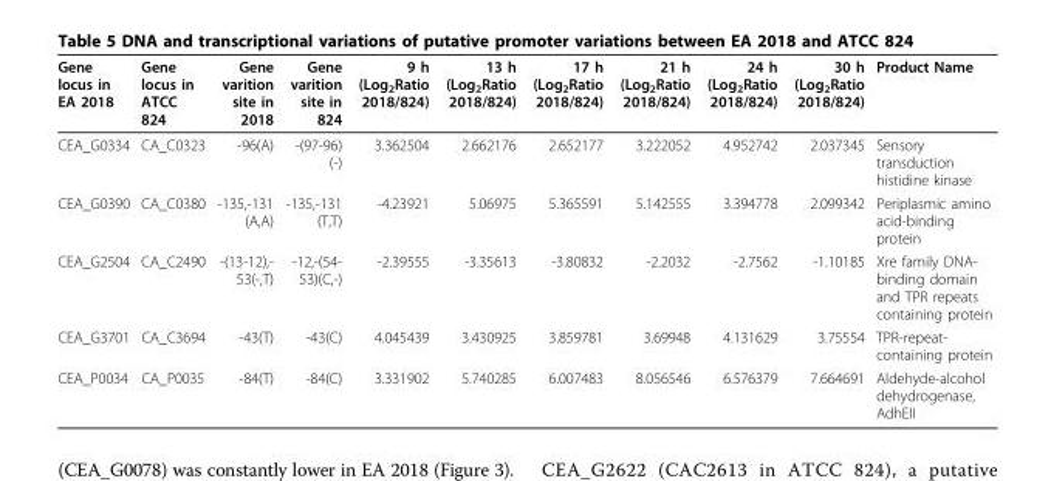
<table><thead><tr><td>Gene locus in EA 2018</td><td>Gene locus in ATCC 824</td><td>Gene varition site in 2018</td><td>Gene varition site in 824</td><td>9 h (Log<sub>2</sub>Ratio 2018/824)</td><td>13 h (Log<sub>2</sub>Ratio 2018/824)</td><td>17 h (Log<sub>2</sub>Ratio 2018/824)</td><td>21 h (Log<sub>2</sub>Ratio 2018/824)</td><td>24 h (Log<sub>2</sub>Ratio 2018/824)</td><td>30 h (Log<sub>2</sub>Ratio 2018/824)</td><td>Product Name</td></tr></thead><tbody><tr><td>CEA_G0334</td><td>CA_C0323</td><td>-96(A)</td><td>-(97-96) (-)</td><td>3.362504</td><td>2.662176</td><td>2.652177</td><td>3.222052</td><td>4.952742</td><td>2.037345</td><td>Sensory transduction histidine kinase</td></tr><tr><td>CEA_G0390</td><td>CA_C0380</td><td>-135,-131 (A,A)</td><td>-135,-131 (T,T)</td><td>-4.23921</td><td>5.06975</td><td>5.365591</td><td>5.142555</td><td>3.394778</td><td>2.099342</td><td>Periplasmic amino acid-binding protein</td></tr><tr><td>CEA_G2504</td><td>CA_C2490</td><td>-(13-12),- 53(-,T)</td><td>-12,-(54- 53)(C,-)</td><td>-2.39555</td><td>-3.35613</td><td>-3.80832</td><td>-2.2032</td><td>-2.7562</td><td>-1.10185</td><td>Xre family DNA- binding domain and TPR repeats containing protein</td></tr><tr><td>CEA_G3701</td><td>CA_C3694</td><td>-43(T)</td><td>-43(C)</td><td>4.045439</td><td>3.430925</td><td>3.859781</td><td>3.69948</td><td>4.131629</td><td>3.75554</td><td>TPR-repeat- containing protein</td></tr><tr><td>CEA_P0034</td><td>CA_P0035</td><td>-84(T)</td><td>-84(C)</td><td>3.331902</td><td>5.740285</td><td>6.007483</td><td>8.056546</td><td>6.576379</td><td>7.664691</td><td>Aldehyde-alcohol dehydrogenase, AdhEII</td></tr></tbody></table>